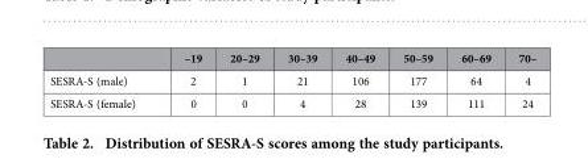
<table><thead><tr><td></td><td>–19</td><td>20–29</td><td>30–39</td><td>40–49</td><td>50–59</td><td>60–69</td><td>70–</td></tr></thead><tbody><tr><td>SESRA-S (male)</td><td>2</td><td>1</td><td>21</td><td>106</td><td>177</td><td>64</td><td>4</td></tr><tr><td>SESRA-S (female)</td><td>0</td><td>0</td><td>4</td><td>28</td><td>139</td><td>111</td><td>24</td></tr></tbody></table>